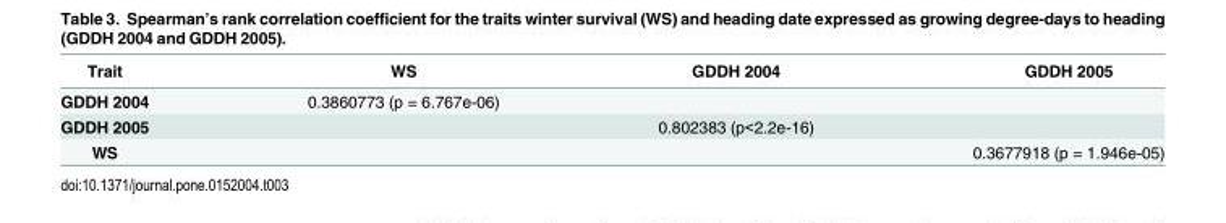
<table><thead><tr><td>Trait</td><td>WS</td><td>GDDH 2004</td><td>GDDH 2005</td></tr></thead><tbody><tr><td>GDDH 2004</td><td>0.3860773 (p = 6.767e-06)</td><td></td><td></td></tr><tr><td>GDDH 2005</td><td></td><td>0.802383 (p&lt;2.2e-16)</td><td></td></tr><tr><td>WS</td><td></td><td></td><td>0.3677918 (p = 1.946e-05)</td></tr></tbody></table>